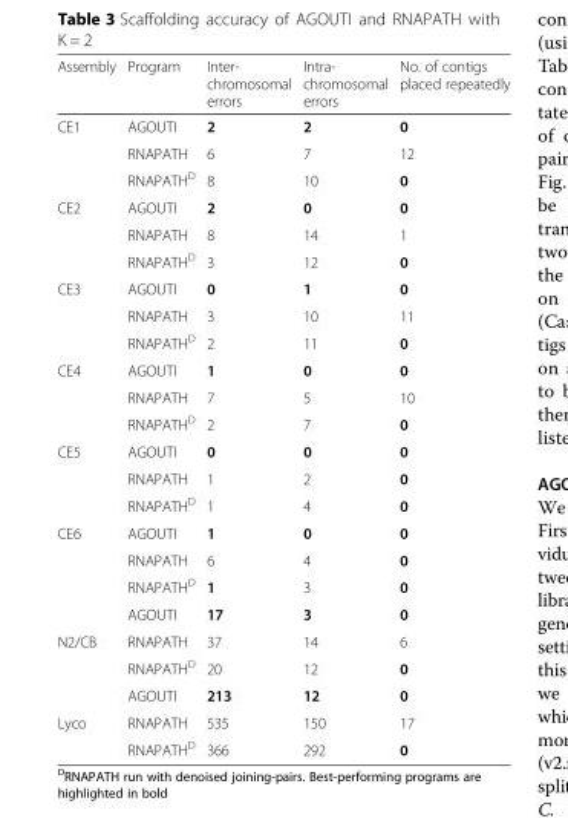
<table><thead><tr><td>Assembly</td><td>Program</td><td>Inter- chromosomal errors</td><td>Intra- chromosomal errors</td><td>No. of contigs placed repeatedly</td></tr></thead><tbody><tr><td rowspan="3">CE1</td><td>AGOUTI</td><td>2</td><td>2</td><td>0</td></tr><tr><td>RNAPATH</td><td>6</td><td>7</td><td>12</td></tr><tr><td>RNAPATH<sup>D</sup></td><td>8</td><td>10</td><td>0</td></tr><tr><td rowspan="3">CE2</td><td>AGOUTI</td><td>2</td><td>0</td><td>0</td></tr><tr><td>RNAPATH</td><td>8</td><td>14</td><td>1</td></tr><tr><td>RNAPATH<sup>D</sup></td><td>3</td><td>12</td><td>0</td></tr><tr><td rowspan="3">CE3</td><td>AGOUTI</td><td>0</td><td>1</td><td>0</td></tr><tr><td>RNAPATH</td><td>3</td><td>10</td><td>11</td></tr><tr><td>RNAPATH<sup>D</sup></td><td>2</td><td>11</td><td>0</td></tr><tr><td rowspan="3">CE4</td><td>AGOUTI</td><td>1</td><td>0</td><td>0</td></tr><tr><td>RNAPATH</td><td>7</td><td>5</td><td>10</td></tr><tr><td>RNAPATH<sup>D</sup></td><td>2</td><td>7</td><td>0</td></tr><tr><td rowspan="3">CE5</td><td>AGOUTI</td><td>0</td><td>0</td><td>0</td></tr><tr><td>RNAPATH</td><td>1</td><td>2</td><td>0</td></tr><tr><td>RNAPATH<sup>D</sup></td><td>1</td><td>4</td><td>0</td></tr><tr><td rowspan="4">CE6</td><td>AGOUTI</td><td>1</td><td>0</td><td>0</td></tr><tr><td>RNAPATH</td><td>6</td><td>4</td><td>0</td></tr><tr><td>RNAPATH<sup>D</sup></td><td>1</td><td>3</td><td>0</td></tr><tr><td>AGOUTI</td><td>17</td><td>3</td><td>0</td></tr><tr><td rowspan="3">N2/CB</td><td>RNAPATH</td><td>37</td><td>14</td><td>6</td></tr><tr><td>RNAPATH<sup>D</sup></td><td>20</td><td>12</td><td>0</td></tr><tr><td>AGOUTI</td><td>213</td><td>12</td><td>0</td></tr><tr><td rowspan="2">Lyco</td><td>RNAPATH</td><td>535</td><td>150</td><td>17</td></tr><tr><td>RNAPATH<sup>D</sup></td><td>366</td><td>292</td><td>0</td></tr></tbody></table>